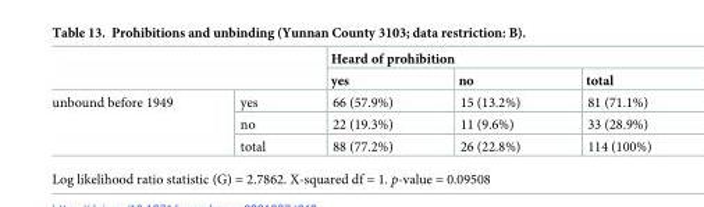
<table><thead><tr><td rowspan="2"></td><td rowspan="2"></td><td colspan="3">Heard of prohibition</td></tr><tr><td>yes</td><td>no</td><td>total</td></tr></thead><tbody><tr><td rowspan="3">unbound before 1949</td><td>yes</td><td>66 (57.9%)</td><td>15 (13.2%)</td><td>81 (71.1%)</td></tr><tr><td>no</td><td>22 (19.3%)</td><td>11 (9.6%)</td><td>33 (28.9%)</td></tr><tr><td>total</td><td>88 (77.2%)</td><td>26 (22.8%)</td><td>114 (100%)</td></tr></tbody></table>